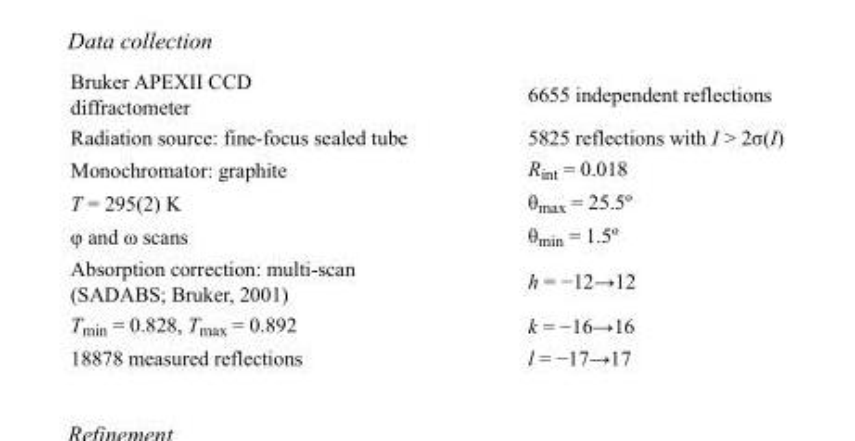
<table><tbody><tr><td>Bruker APEXII CCD diffractometer</td><td>6655 independent reflections</td></tr><tr><td>Radiation source: fine-focus sealed tube</td><td>5825 reflections with I &gt; 2σ(I)</td></tr><tr><td>Monochromator: graphite</td><td>R<sub>int</sub> = 0.018</td></tr><tr><td>T = 295(2) K</td><td>θ<sub>max</sub> = 25.5º</td></tr><tr><td>φ and ω scans</td><td>θ<sub>min</sub> = 1.5º</td></tr><tr><td>Absorption correction: multi-scan (SADABS; Bruker, 2001)</td><td>h = −12→12</td></tr><tr><td>T<sub>min</sub> = 0.828, T<sub>max</sub> = 0.892</td><td>k = −16→16</td></tr><tr><td>18878 measured reflections</td><td>l = −17→17</td></tr></tbody></table>